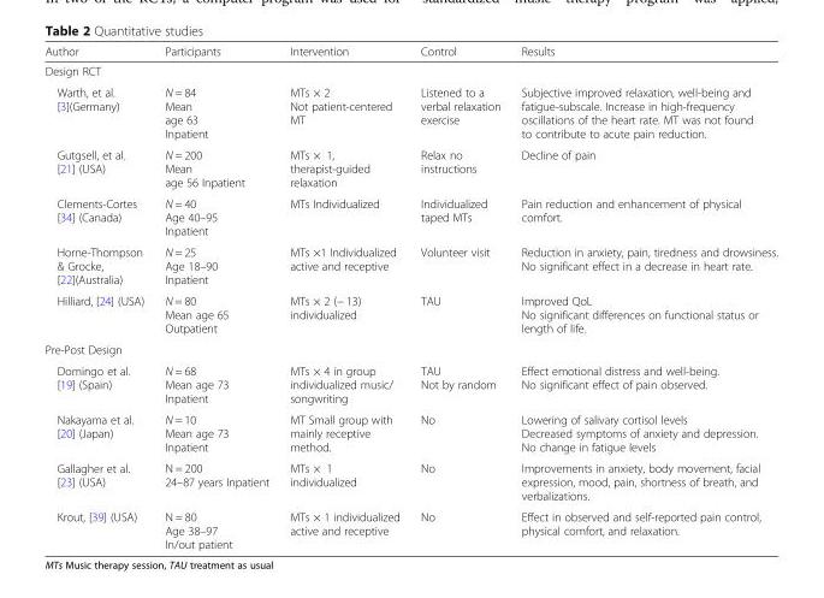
<table><thead><tr><td>Author</td><td>Participants</td><td>Intervention</td><td>Control</td><td>Results</td></tr></thead><tbody><tr><td colspan="5">Design RCT</td></tr><tr><td>Warth, et al. [3](Germany)</td><td>N = 84 Mean age 63 Inpatient</td><td>MTs × 2 Not patient-centered MT</td><td>Listened to a verbal relaxation exercise</td><td>Subjective improved relaxation, well-being and fatigue-subscale. Increase in high-frequency oscillations of the heart rate. MT was not found to contribute to acute pain reduction.</td></tr><tr><td>Gutgsell, et al. [21] (USA)</td><td>N = 200 Mean age 56 Inpatient</td><td>MTs × 1, therapist-guided relaxation</td><td>Relax no instructions</td><td>Decline of pain</td></tr><tr><td>Clements-Cortes [34] (Canada)</td><td>N = 40 Age 40–95 Inpatient</td><td>MTs Individualized</td><td>Individualized taped MTs</td><td>Pain reduction and enhancement of physical comfort.</td></tr><tr><td>Horne-Thompson &amp; Grocke, [22](Australia)</td><td>N = 25 Age 18–90 Inpatient</td><td>MTs ×1 Individualized active and receptive</td><td>Volunteer visit</td><td>Reduction in anxiety, pain, tiredness and drowsiness. No significant effect in a decrease in heart rate.</td></tr><tr><td>Hilliard, [24] (USA)</td><td>N = 80 Mean age 65 Outpatient</td><td>MTs × 2 (− 13) individualized</td><td>TAU</td><td>Improved QoL No significant differences on functional status or length of life.</td></tr><tr><td colspan="5">Pre-Post Design</td></tr><tr><td>Domingo et al. [19] (Spain)</td><td>N = 68 Mean age 73 Inpatient</td><td>MTs × 4 in group individualized music/ songwriting</td><td>TAU Not by random</td><td>Effect emotional distress and well-being. No significant effect of pain observed.</td></tr><tr><td>Nakayama et al. [20] (Japan)</td><td>N = 10 Mean age 73 Inpatient</td><td>MT Small group with mainly receptive method.</td><td>No</td><td>Lowering of salivary cortisol levels Decreased symptoms of anxiety and depression. No change in fatigue levels</td></tr><tr><td>Gallagher et al. [23] (USA)</td><td>N = 200 24–87 years Inpatient</td><td>MTs × 1 individualized</td><td>No</td><td>Improvements in anxiety, body movement, facial expression, mood, pain, shortness of breath, and verbalizations.</td></tr><tr><td>Krout, [39] (USA)</td><td>N = 80 Age 38–97 In/out patient</td><td>MTs × 1 individualized active and receptive</td><td>No</td><td>Effect in observed and self-reported pain control, physical comfort, and relaxation.</td></tr></tbody></table>